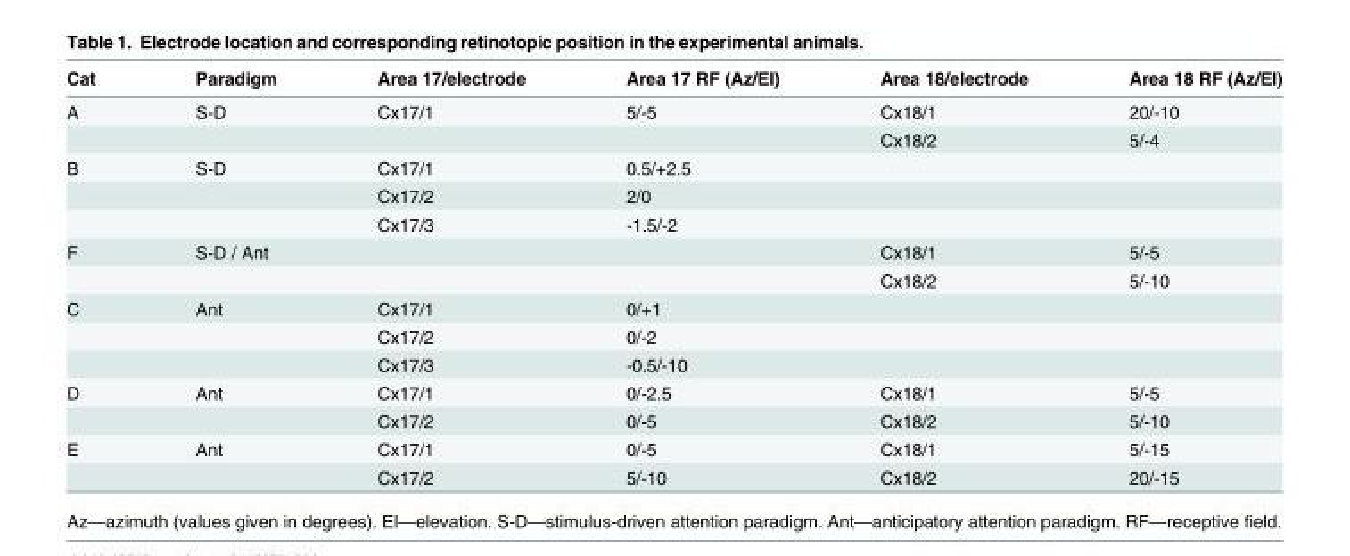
<table><thead><tr><td>Cat</td><td>Paradigm</td><td>Area 17/electrode</td><td>Area 17 RF (Az/El)</td><td>Area 18/electrode</td><td>Area 18 RF (Az/El)</td></tr></thead><tbody><tr><td rowspan="2">A</td><td>S-D</td><td>Cx17/1</td><td>5/-5</td><td>Cx18/1</td><td>20/-10</td></tr><tr><td></td><td></td><td></td><td>Cx18/2</td><td>5/-4</td></tr><tr><td rowspan="3">B</td><td>S-D</td><td>Cx17/1</td><td>0.5/+2.5</td><td></td><td></td></tr><tr><td></td><td>Cx17/2</td><td>2/0</td><td></td><td></td></tr><tr><td></td><td>Cx17/3</td><td>-1.5/-2</td><td></td><td></td></tr><tr><td rowspan="2">F</td><td>S-D / Ant</td><td></td><td></td><td>Cx18/1</td><td>5/-5</td></tr><tr><td></td><td></td><td></td><td>Cx18/2</td><td>5/-10</td></tr><tr><td rowspan="3">C</td><td>Ant</td><td>Cx17/1</td><td>0/+1</td><td></td><td></td></tr><tr><td></td><td>Cx17/2</td><td>0/-2</td><td></td><td></td></tr><tr><td></td><td>Cx17/3</td><td>-0.5/-10</td><td></td><td></td></tr><tr><td rowspan="2">D</td><td>Ant</td><td>Cx17/1</td><td>0/-2.5</td><td>Cx18/1</td><td>5/-5</td></tr><tr><td></td><td>Cx17/2</td><td>0/-5</td><td>Cx18/2</td><td>5/-10</td></tr><tr><td rowspan="2">E</td><td>Ant</td><td>Cx17/1</td><td>0/-5</td><td>Cx18/1</td><td>5/-15</td></tr><tr><td></td><td>Cx17/2</td><td>5/-10</td><td>Cx18/2</td><td>20/-15</td></tr></tbody></table>